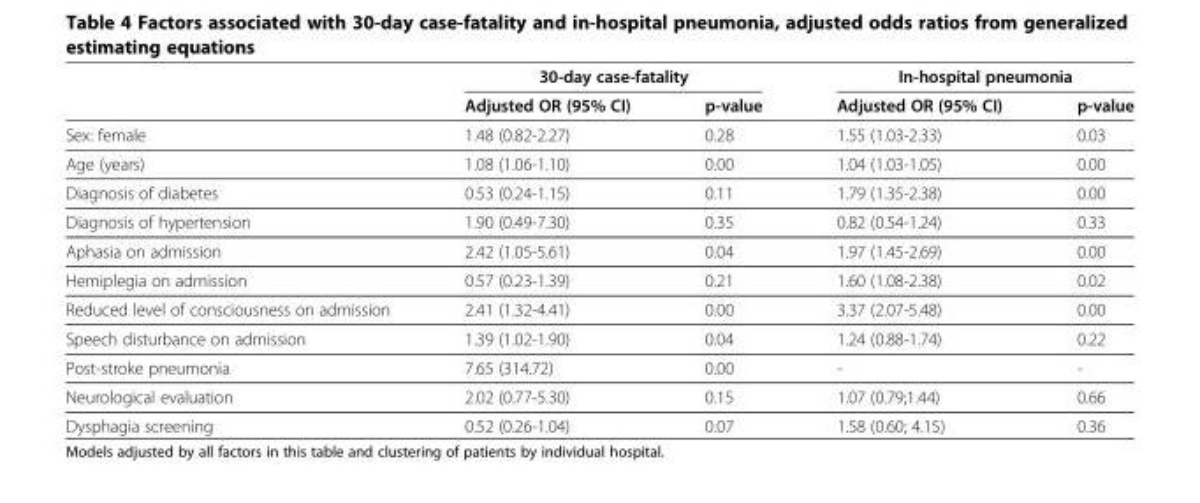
<table><thead><tr><td rowspan="2"></td><td colspan="2">30-day case-fatality</td><td colspan="2">In-hospital pneumonia</td></tr><tr><td>Adjusted OR (95% CI)</td><td>p-value</td><td>Adjusted OR (95% CI)</td><td>p-value</td></tr></thead><tbody><tr><td>Sex: female</td><td>1.48 (0.82-2.27)</td><td>0.28</td><td>1.55 (1.03-2.33)</td><td>0.03</td></tr><tr><td>Age (years)</td><td>1.08 (1.06-1.10)</td><td>0.00</td><td>1.04 (1.03-1.05)</td><td>0.00</td></tr><tr><td>Diagnosis of diabetes</td><td>0.53 (0.24-1.15)</td><td>0.11</td><td>1.79 (1.35-2.38)</td><td>0.00</td></tr><tr><td>Diagnosis of hypertension</td><td>1.90 (0.49-7.30)</td><td>0.35</td><td>0.82 (0.54-1.24)</td><td>0.33</td></tr><tr><td>Aphasia on admission</td><td>2.42 (1.05-5.61)</td><td>0.04</td><td>1.97 (1.45-2.69)</td><td>0.00</td></tr><tr><td>Hemiplegia on admission</td><td>0.57 (0.23-1.39)</td><td>0.21</td><td>1.60 (1.08-2.38)</td><td>0.02</td></tr><tr><td>Reduced level of consciousness on admission</td><td>2.41 (1.32-4.41)</td><td>0.00</td><td>3.37 (2.07-5.48)</td><td>0.00</td></tr><tr><td>Speech disturbance on admission</td><td>1.39 (1.02-1.90)</td><td>0.04</td><td>1.24 (0.88-1.74)</td><td>0.22</td></tr><tr><td>Post-stroke pneumonia</td><td>7.65 (314.72)</td><td>0.00</td><td>-</td><td>-</td></tr><tr><td>Neurological evaluation</td><td>2.02 (0.77-5.30)</td><td>0.15</td><td>1.07 (0.79;1.44)</td><td>0.66</td></tr><tr><td>Dysphagia screening</td><td>0.52 (0.26-1.04)</td><td>0.07</td><td>1.58 (0.60; 4.15)</td><td>0.36</td></tr></tbody></table>